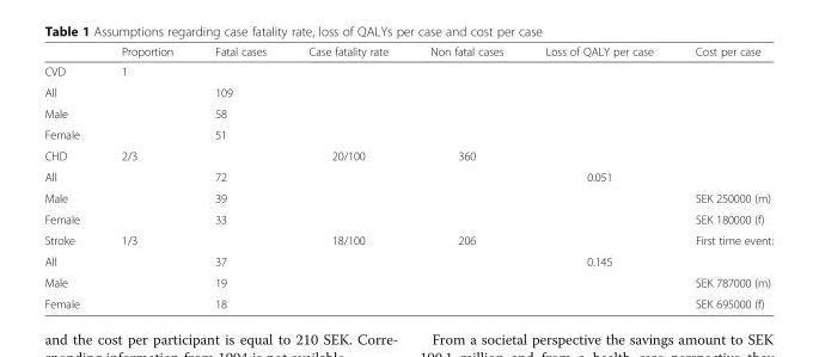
<table><thead><tr><td></td><td>Proportion</td><td>Fatal cases</td><td>Case fatality rate</td><td>Non fatal cases</td><td>Loss of QALY per case</td><td>Cost per case</td></tr></thead><tbody><tr><td>CVD</td><td>1</td><td></td><td></td><td></td><td></td><td></td></tr><tr><td>All</td><td></td><td>109</td><td></td><td></td><td></td><td></td></tr><tr><td>Male</td><td></td><td>58</td><td></td><td></td><td></td><td></td></tr><tr><td>Female</td><td></td><td>51</td><td></td><td></td><td></td><td></td></tr><tr><td>CHD</td><td>2/3</td><td></td><td>20/100</td><td>360</td><td></td><td></td></tr><tr><td>All</td><td></td><td>72</td><td></td><td></td><td>0.051</td><td></td></tr><tr><td>Male</td><td></td><td>39</td><td></td><td></td><td></td><td>SEK 250000 (m)</td></tr><tr><td>Female</td><td></td><td>33</td><td></td><td></td><td></td><td>SEK 180000 (f)</td></tr><tr><td>Stroke</td><td>1/3</td><td></td><td>18/100</td><td>206</td><td></td><td>First time event:</td></tr><tr><td>All</td><td></td><td>37</td><td></td><td></td><td>0.145</td><td></td></tr><tr><td>Male</td><td></td><td>19</td><td></td><td></td><td></td><td>SEK 787000 (m)</td></tr><tr><td>Female</td><td></td><td>18</td><td></td><td></td><td></td><td>SEK 695000 (f)</td></tr></tbody></table>